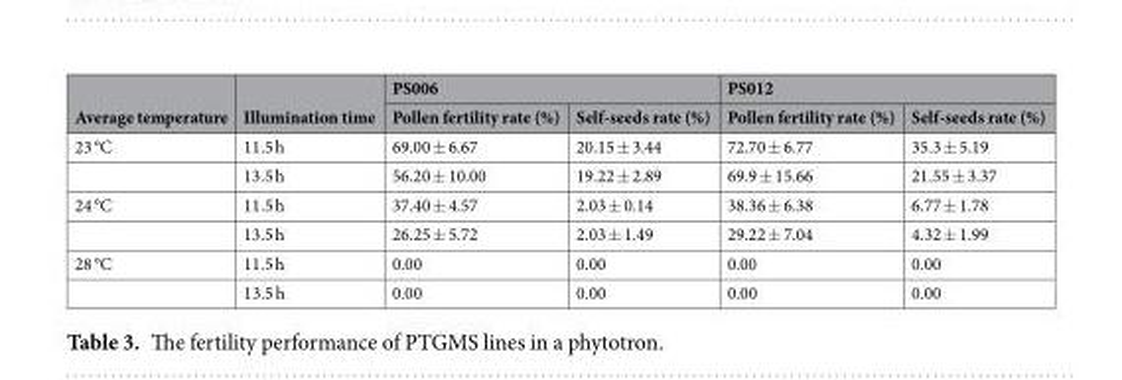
<table><thead><tr><td rowspan="2">Average temperature</td><td rowspan="2">Illumination time</td><td colspan="2">PS006</td><td colspan="2">PS012</td></tr><tr><td>Pollen fertility rate (%)</td><td>Self-seeds rate (%)</td><td>Pollen fertility rate (%)</td><td>Self-seeds rate (%)</td></tr></thead><tbody><tr><td rowspan="2">23 °C</td><td>11.5 h</td><td>69.00 ± 6.67</td><td>20.15 ± 3.44</td><td>72.70 ± 6.77</td><td>35.3 ± 5.19</td></tr><tr><td>13.5 h</td><td>56.20 ± 10.00</td><td>19.22 ± 2.89</td><td>69.9 ± 15.66</td><td>21.55 ± 3.37</td></tr><tr><td rowspan="2">24 °C</td><td>11.5 h</td><td>37.40 ± 4.57</td><td>2.03 ± 0.14</td><td>38.36 ± 6.38</td><td>6.77 ± 1.78</td></tr><tr><td>13.5 h</td><td>26.25 ± 5.72</td><td>2.03 ± 1.49</td><td>29.22 ± 7.04</td><td>4.32 ± 1.99</td></tr><tr><td rowspan="2">28 °C</td><td>11.5 h</td><td>0.00</td><td>0.00</td><td>0.00</td><td>0.00</td></tr><tr><td>13.5 h</td><td>0.00</td><td>0.00</td><td>0.00</td><td>0.00</td></tr></tbody></table>